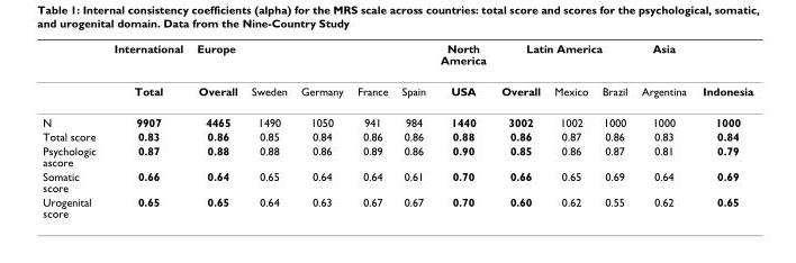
<table><thead><tr><td rowspan="2"></td><td rowspan="2">International Total</td><td rowspan="2">Europe Overall</td><td rowspan="2">Sweden</td><td rowspan="2">Germany</td><td rowspan="2">France</td><td rowspan="2">Spain</td><td rowspan="2">North America USA</td><td colspan="3">Latin America</td><td rowspan="2">Asia Argentina</td><td rowspan="2">Indonesia</td></tr><tr><td>Overall</td><td>Mexico</td><td>Brazil</td></tr></thead><tbody><tr><td>N</td><td>9907</td><td>4465</td><td>1490</td><td>1050</td><td>941</td><td>984</td><td>1440</td><td>3002</td><td>1002</td><td>1000</td><td>1000</td><td>1000</td></tr><tr><td>Total score</td><td>0.83</td><td>0.86</td><td>0.85</td><td>0.84</td><td>0.86</td><td>0.86</td><td>0.88</td><td>0.86</td><td>0.87</td><td>0.86</td><td>0.83</td><td>0.84</td></tr><tr><td>Psychologic ascore</td><td>0.87</td><td>0.88</td><td>0.88</td><td>0.86</td><td>0.89</td><td>0.86</td><td>0.90</td><td>0.85</td><td>0.86</td><td>0.87</td><td>0.81</td><td>0.79</td></tr><tr><td>Somatic score</td><td>0.66</td><td>0.64</td><td>0.65</td><td>0.64</td><td>0.64</td><td>0.61</td><td>0.70</td><td>0.66</td><td>0.65</td><td>0.69</td><td>0.64</td><td>0.69</td></tr><tr><td>Urogenital score</td><td>0.65</td><td>0.65</td><td>0.64</td><td>0.63</td><td>0.67</td><td>0.67</td><td>0.70</td><td>0.60</td><td>0.62</td><td>0.55</td><td>0.62</td><td>0.65</td></tr></tbody></table>